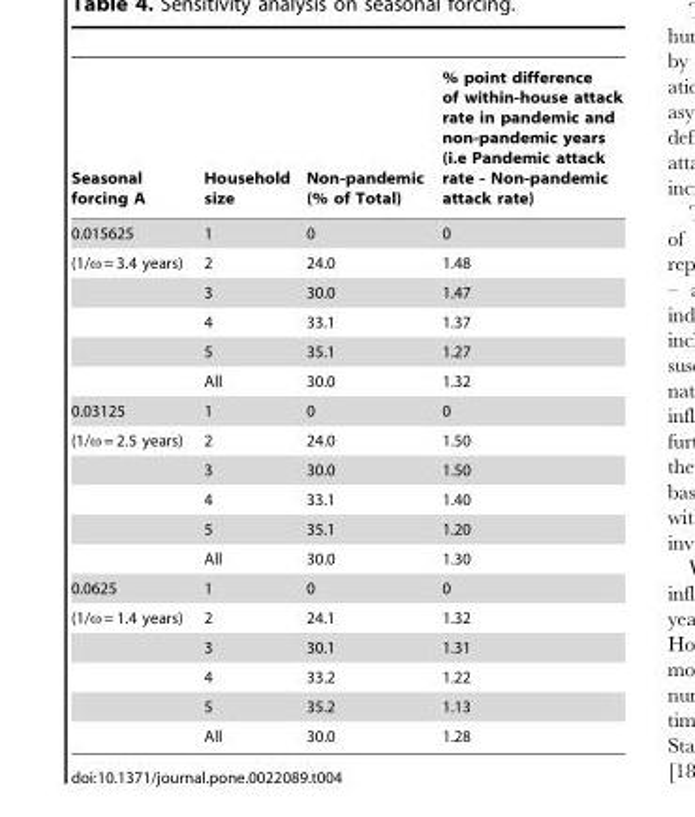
<table><thead><tr><td>Seasonal forcing A</td><td>Household size</td><td>Non-pandemic (% of Total)</td><td>% point difference of within-house attack rate in pandemic and non-pandemic years (i.e Pandemic attack rate - Non-pandemic attack rate)</td></tr></thead><tbody><tr><td>0.015625</td><td>1</td><td>0</td><td>0</td></tr><tr><td rowspan="5">(1/ω = 3.4 years)</td><td>2</td><td>24.0</td><td>1.48</td></tr><tr><td>3</td><td>30.0</td><td>1.47</td></tr><tr><td>4</td><td>33.1</td><td>1.37</td></tr><tr><td>5</td><td>35.1</td><td>1.27</td></tr><tr><td>All</td><td>30.0</td><td>1.32</td></tr><tr><td>0.03125</td><td>1</td><td>0</td><td>0</td></tr><tr><td rowspan="5">(1/ω = 2.5 years)</td><td>2</td><td>24.0</td><td>1.50</td></tr><tr><td>3</td><td>30.0</td><td>1.50</td></tr><tr><td>4</td><td>33.1</td><td>1.40</td></tr><tr><td>5</td><td>35.1</td><td>1.20</td></tr><tr><td>All</td><td>30.0</td><td>1.30</td></tr><tr><td>0.0625</td><td>1</td><td>0</td><td>0</td></tr><tr><td rowspan="5">(1/ω = 1.4 years)</td><td>2</td><td>24.1</td><td>1.32</td></tr><tr><td>3</td><td>30.1</td><td>1.31</td></tr><tr><td>4</td><td>33.2</td><td>1.22</td></tr><tr><td>5</td><td>35.2</td><td>1.13</td></tr><tr><td>All</td><td>30.0</td><td>1.28</td></tr></tbody></table>